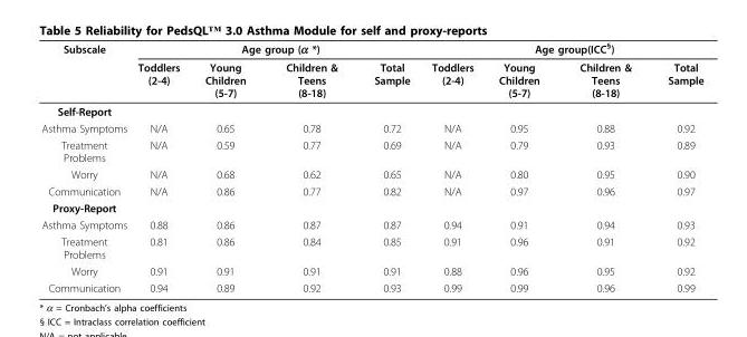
<table><thead><tr><td rowspan="2">Subscale</td><td colspan="4">Age group (α *)</td><td colspan="4">Age group(ICC<sup>§</sup>)</td></tr><tr><td>Toddlers (2-4)</td><td>Young Children (5-7)</td><td>Children &amp; Teens (8-18)</td><td>Total Sample</td><td>Toddlers (2-4)</td><td>Young Children (5-7)</td><td>Children &amp; Teens (8-18)</td><td>Total Sample</td></tr></thead><tbody><tr><td colspan="9">Self-Report</td></tr><tr><td>Asthma Symptoms</td><td>N/A</td><td>0.65</td><td>0.78</td><td>0.72</td><td>N/A</td><td>0.95</td><td>0.88</td><td>0.92</td></tr><tr><td>Treatment Problems</td><td>N/A</td><td>0.59</td><td>0.77</td><td>0.69</td><td>N/A</td><td>0.79</td><td>0.93</td><td>0.89</td></tr><tr><td>Worry</td><td>N/A</td><td>0.68</td><td>0.62</td><td>0.65</td><td>N/A</td><td>0.80</td><td>0.95</td><td>0.90</td></tr><tr><td>Communication</td><td>N/A</td><td>0.86</td><td>0.77</td><td>0.82</td><td>N/A</td><td>0.97</td><td>0.96</td><td>0.97</td></tr><tr><td colspan="9">Proxy-Report</td></tr><tr><td>Asthma Symptoms</td><td>0.88</td><td>0.86</td><td>0.87</td><td>0.87</td><td>0.94</td><td>0.91</td><td>0.94</td><td>0.93</td></tr><tr><td>Treatment Problems</td><td>0.81</td><td>0.86</td><td>0.84</td><td>0.85</td><td>0.91</td><td>0.96</td><td>0.91</td><td>0.92</td></tr><tr><td>Worry</td><td>0.91</td><td>0.91</td><td>0.91</td><td>0.91</td><td>0.88</td><td>0.96</td><td>0.95</td><td>0.92</td></tr><tr><td>Communication</td><td>0.94</td><td>0.89</td><td>0.92</td><td>0.93</td><td>0.99</td><td>0.99</td><td>0.96</td><td>0.99</td></tr></tbody></table>